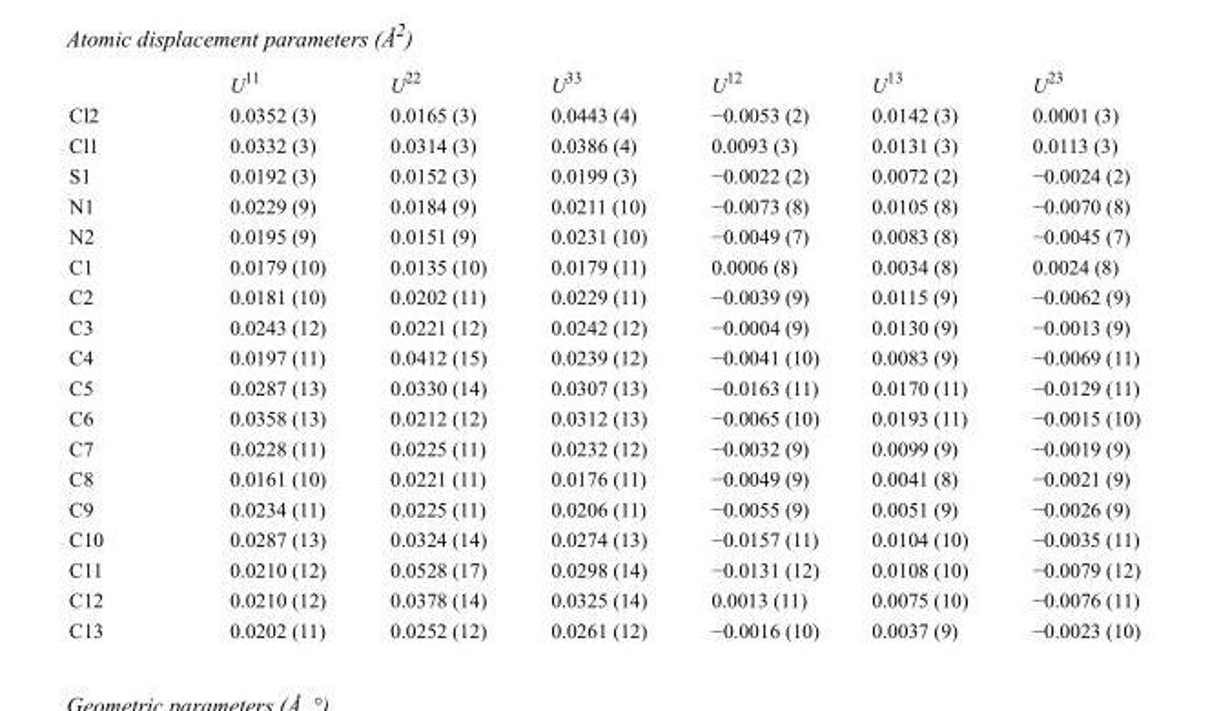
<table><thead><tr><td></td><td>U<sup>11</sup></td><td>U<sup>22</sup></td><td>U<sup>33</sup></td><td>U<sup>12</sup></td><td>U<sup>13</sup></td><td>U<sup>23</sup></td></tr></thead><tbody><tr><td>Cl2</td><td>0.0352 (3)</td><td>0.0165 (3)</td><td>0.0443 (4)</td><td>−0.0053 (2)</td><td>0.0142 (3)</td><td>0.0001 (3)</td></tr><tr><td>Cl1</td><td>0.0332 (3)</td><td>0.0314 (3)</td><td>0.0386 (4)</td><td>0.0093 (3)</td><td>0.0131 (3)</td><td>0.0113 (3)</td></tr><tr><td>S1</td><td>0.0192 (3)</td><td>0.0152 (3)</td><td>0.0199 (3)</td><td>−0.0022 (2)</td><td>0.0072 (2)</td><td>−0.0024 (2)</td></tr><tr><td>N1</td><td>0.0229 (9)</td><td>0.0184 (9)</td><td>0.0211 (10)</td><td>−0.0073 (8)</td><td>0.0105 (8)</td><td>−0.0070 (8)</td></tr><tr><td>N2</td><td>0.0195 (9)</td><td>0.0151 (9)</td><td>0.0231 (10)</td><td>−0.0049 (7)</td><td>0.0083 (8)</td><td>−0.0045 (7)</td></tr><tr><td>C1</td><td>0.0179 (10)</td><td>0.0135 (10)</td><td>0.0179 (11)</td><td>0.0006 (8)</td><td>0.0034 (8)</td><td>0.0024 (8)</td></tr><tr><td>C2</td><td>0.0181 (10)</td><td>0.0202 (11)</td><td>0.0229 (11)</td><td>−0.0039 (9)</td><td>0.0115 (9)</td><td>−0.0062 (9)</td></tr><tr><td>C3</td><td>0.0243 (12)</td><td>0.0221 (12)</td><td>0.0242 (12)</td><td>−0.0004 (9)</td><td>0.0130 (9)</td><td>−0.0013 (9)</td></tr><tr><td>C4</td><td>0.0197 (11)</td><td>0.0412 (15)</td><td>0.0239 (12)</td><td>−0.0041 (10)</td><td>0.0083 (9)</td><td>−0.0069 (11)</td></tr><tr><td>C5</td><td>0.0287 (13)</td><td>0.0330 (14)</td><td>0.0307 (13)</td><td>−0.0163 (11)</td><td>0.0170 (11)</td><td>−0.0129 (11)</td></tr><tr><td>C6</td><td>0.0358 (13)</td><td>0.0212 (12)</td><td>0.0312 (13)</td><td>−0.0065 (10)</td><td>0.0193 (11)</td><td>−0.0015 (10)</td></tr><tr><td>C7</td><td>0.0228 (11)</td><td>0.0225 (11)</td><td>0.0232 (12)</td><td>−0.0032 (9)</td><td>0.0099 (9)</td><td>−0.0019 (9)</td></tr><tr><td>C8</td><td>0.0161 (10)</td><td>0.0221 (11)</td><td>0.0176 (11)</td><td>−0.0049 (9)</td><td>0.0041 (8)</td><td>−0.0021 (9)</td></tr><tr><td>C9</td><td>0.0234 (11)</td><td>0.0225 (11)</td><td>0.0206 (11)</td><td>−0.0055 (9)</td><td>0.0051 (9)</td><td>−0.0026 (9)</td></tr><tr><td>C10</td><td>0.0287 (13)</td><td>0.0324 (14)</td><td>0.0274 (13)</td><td>−0.0157 (11)</td><td>0.0104 (10)</td><td>−0.0035 (11)</td></tr><tr><td>C11</td><td>0.0210 (12)</td><td>0.0528 (17)</td><td>0.0298 (14)</td><td>−0.0131 (12)</td><td>0.0108 (10)</td><td>−0.0079 (12)</td></tr><tr><td>C12</td><td>0.0210 (12)</td><td>0.0378 (14)</td><td>0.0325 (14)</td><td>0.0013 (11)</td><td>0.0075 (10)</td><td>−0.0076 (11)</td></tr><tr><td>C13</td><td>0.0202 (11)</td><td>0.0252 (12)</td><td>0.0261 (12)</td><td>−0.0016 (10)</td><td>0.0037 (9)</td><td>−0.0023 (10)</td></tr></tbody></table>